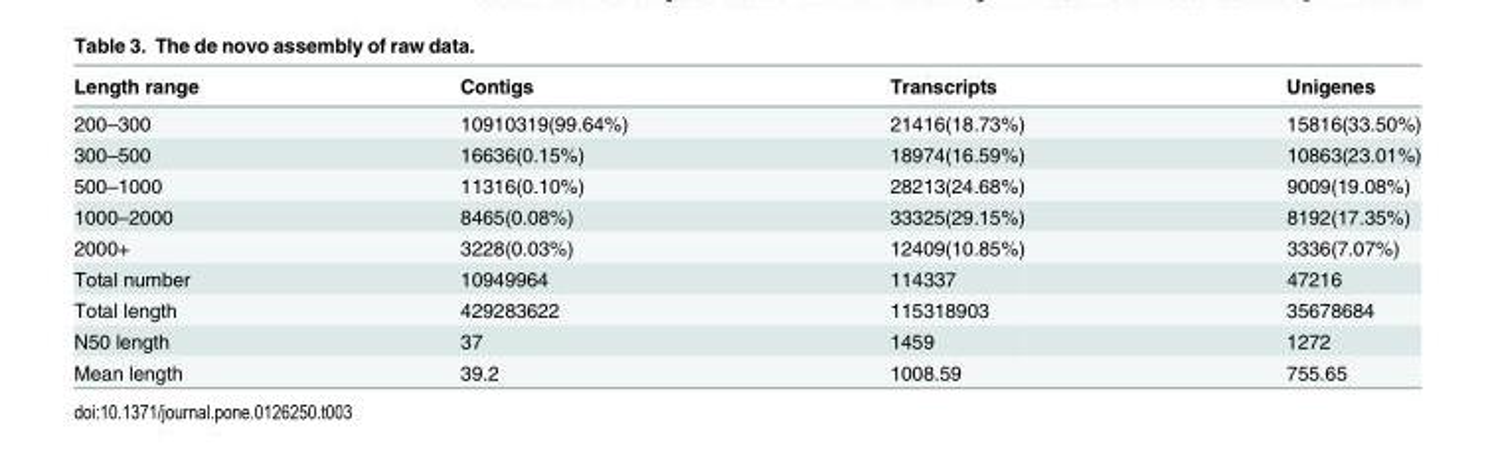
<table><thead><tr><td>Length range</td><td>Contigs</td><td>Transcripts</td><td>Unigenes</td></tr></thead><tbody><tr><td>200–300</td><td>10910319(99.64%)</td><td>21416(18.73%)</td><td>15816(33.50%)</td></tr><tr><td>300–500</td><td>16636(0.15%)</td><td>18974(16.59%)</td><td>10863(23.01%)</td></tr><tr><td>500–1000</td><td>11316(0.10%)</td><td>28213(24.68%)</td><td>9009(19.08%)</td></tr><tr><td>1000–2000</td><td>8465(0.08%)</td><td>33325(29.15%)</td><td>8192(17.35%)</td></tr><tr><td>2000+</td><td>3228(0.03%)</td><td>12409(10.85%)</td><td>3336(7.07%)</td></tr><tr><td>Total number</td><td>10949964</td><td>114337</td><td>47216</td></tr><tr><td>Total length</td><td>429283622</td><td>115318903</td><td>35678684</td></tr><tr><td>N50 length</td><td>37</td><td>1459</td><td>1272</td></tr><tr><td>Mean length</td><td>39.2</td><td>1008.59</td><td>755.65</td></tr></tbody></table>